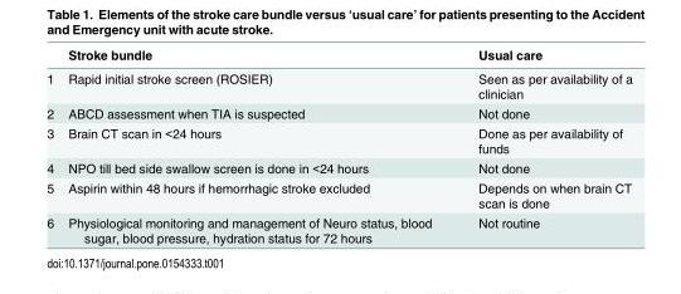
<table><thead><tr><td></td><td>Stroke bundle</td><td>Usual care</td></tr></thead><tbody><tr><td>1</td><td>Rapid initial stroke screen (ROSIER)</td><td>Seen as per availability of a clinician</td></tr><tr><td>2</td><td>ABCD assessment when TIA is suspected</td><td>Not done</td></tr><tr><td>3</td><td>Brain CT scan in &lt;24 hours</td><td>Done as per availability of funds</td></tr><tr><td>4</td><td>NPO till bed side swallow screen is done in &lt;24 hours</td><td>Not done</td></tr><tr><td>5</td><td>Aspirin within 48 hours if hemorrhagic stroke excluded</td><td>Depends on when brain CT scan is done</td></tr><tr><td>6</td><td>Physiological monitoring and management of Neuro status, blood sugar, blood pressure, hydration status for 72 hours</td><td>Not routine</td></tr></tbody></table>